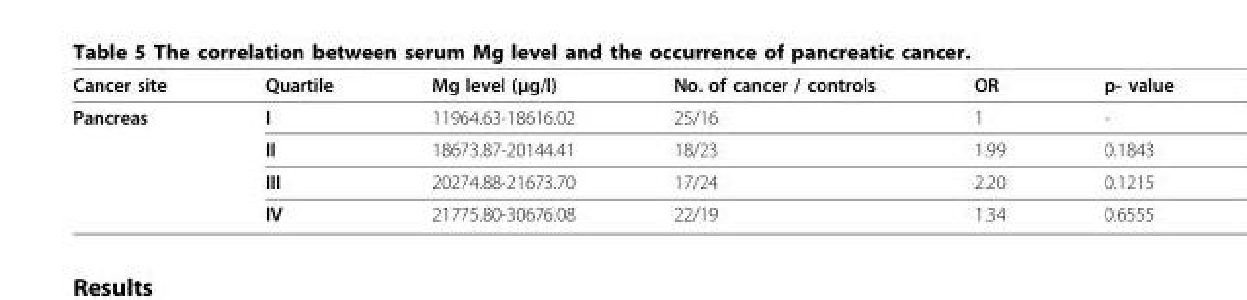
<table><thead><tr><td>Cancer site</td><td>Quartile</td><td>Mg level (µg/l)</td><td>No. of cancer / controls</td><td>OR</td><td>p- value</td></tr></thead><tbody><tr><td rowspan="4">Pancreas</td><td>I</td><td>11964.63-18616.02</td><td>25/16</td><td>1</td><td>-</td></tr><tr><td>II</td><td>18673.87-20144.41</td><td>18/23</td><td>1.99</td><td>0.1843</td></tr><tr><td>III</td><td>20274.88-21673.70</td><td>17/24</td><td>2.20</td><td>0.1215</td></tr><tr><td>IV</td><td>21775.80-30676.08</td><td>22/19</td><td>1.34</td><td>0.6555</td></tr></tbody></table>